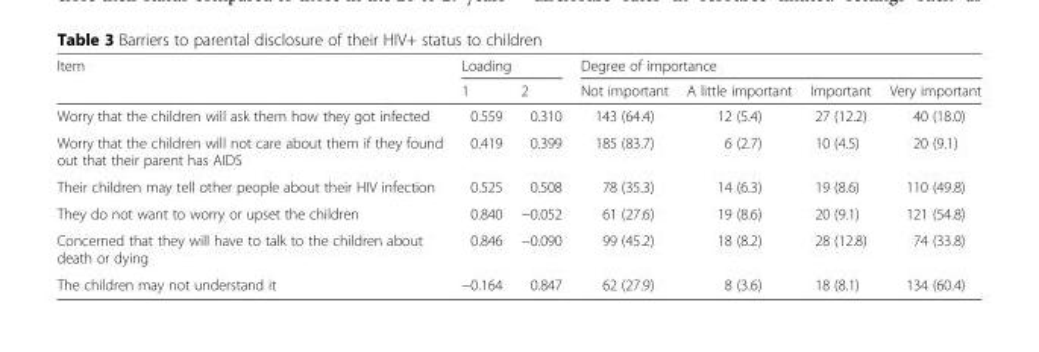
<table><thead><tr><td rowspan="2">Item</td><td colspan="2">Loading</td><td colspan="4">Degree of importance</td></tr><tr><td>1</td><td>2</td><td>Not important</td><td>A little important</td><td>Important</td><td>Very important</td></tr></thead><tbody><tr><td>Worry that the children will ask them how they got infected</td><td>0.559</td><td>0.310</td><td>143 (64.4)</td><td>12 (5.4)</td><td>27 (12.2)</td><td>40 (18.0)</td></tr><tr><td>Worry that the children will not care about them if they found out that their parent has AIDS</td><td>0.419</td><td>0.399</td><td>185 (83.7)</td><td>6 (2.7)</td><td>10 (4.5)</td><td>20 (9.1)</td></tr><tr><td>Their children may tell other people about their HIV infection</td><td>0.525</td><td>0.508</td><td>78 (35.3)</td><td>14 (6.3)</td><td>19 (8.6)</td><td>110 (49.8)</td></tr><tr><td>They do not want to worry or upset the children</td><td>0.840</td><td>−0.052</td><td>61 (27.6)</td><td>19 (8.6)</td><td>20 (9.1)</td><td>121 (54.8)</td></tr><tr><td>Concerned that they will have to talk to the children about death or dying</td><td>0.846</td><td>−0.090</td><td>99 (45.2)</td><td>18 (8.2)</td><td>28 (12.8)</td><td>74 (33.8)</td></tr><tr><td>The children may not understand it</td><td>−0.164</td><td>0.847</td><td>62 (27.9)</td><td>8 (3.6)</td><td>18 (8.1)</td><td>134 (60.4)</td></tr></tbody></table>